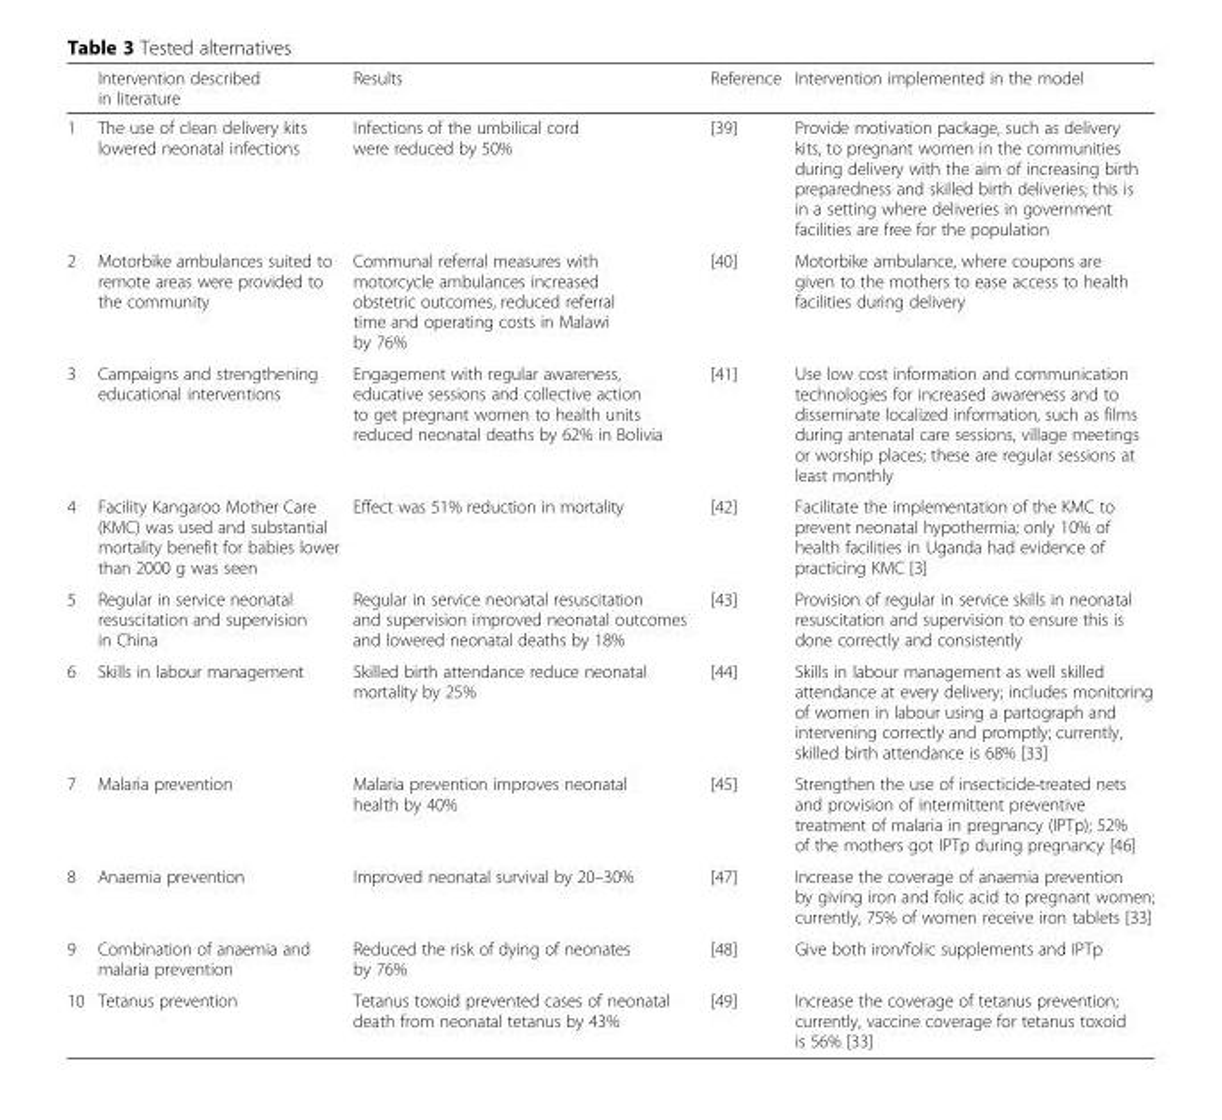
<table><thead><tr><td></td><td>Intervention described in literature</td><td>Results</td><td>Reference</td><td>Intervention implemented in the model</td></tr></thead><tbody><tr><td>1</td><td>The use of clean delivery kits lowered neonatal infections</td><td>Infections of the umbilical cord were reduced by 50%</td><td>[39]</td><td>Provide motivation package, such as delivery kits, to pregnant women in the communities during delivery with the aim of increasing birth preparedness and skilled birth deliveries; this is in a setting where deliveries in government facilities are free for the population</td></tr><tr><td>2</td><td>Motorbike ambulances suited to remote areas were provided to the community</td><td>Communal referral measures with motorcycle ambulances increased obstetric outcomes, reduced referral time and operating costs in Malawi by 76%</td><td>[40]</td><td>Motorbike ambulance, where coupons are given to the mothers to ease access to health facilities during delivery</td></tr><tr><td>3</td><td>Campaigns and strengthening educational interventions</td><td>Engagement with regular awareness, educative sessions and collective action to get pregnant women to health units reduced neonatal deaths by 62% in Bolivia</td><td>[41]</td><td>Use low cost information and communication technologies for increased awareness and to disseminate localized information, such as films during antenatal care sessions, village meetings or worship places; these are regular sessions at least monthly</td></tr><tr><td>4</td><td>Facility Kangaroo Mother Care (KMC) was used and substantial mortality benefit for babies lower than 2000 g was seen</td><td>Effect was 51% reduction in mortality</td><td>[42]</td><td>Facilitate the implementation of the KMC to prevent neonatal hypothermia; only 10% of health facilities in Uganda had evidence of practicing KMC [3]</td></tr><tr><td>5</td><td>Regular in service neonatal resuscitation and supervision in China</td><td>Regular in service neonatal resuscitation and supervision improved neonatal outcomes and lowered neonatal deaths by 18%</td><td>[43]</td><td>Provision of regular in service skills in neonatal resuscitation and supervision to ensure this is done correctly and consistently</td></tr><tr><td>6</td><td>Skills in labour management</td><td>Skilled birth attendance reduce neonatal mortality by 25%</td><td>[44]</td><td>Skills in labour management as well skilled attendance at every delivery; includes monitoring of women in labour using a partograph and intervening correctly and promptly; currently, skilled birth attendance is 68% [33]</td></tr><tr><td>7</td><td>Malaria prevention</td><td>Malaria prevention improves neonatal health by 40%</td><td>[45]</td><td>Strengthen the use of insecticide-treated nets and provision of intermittent preventive treatment of malaria in pregnancy (IPTp); 52% of the mothers got IPTp during pregnancy [46]</td></tr><tr><td>8</td><td>Anaemia prevention</td><td>Improved neonatal survival by 20–30%</td><td>[47]</td><td>Increase the coverage of anaemia prevention by giving iron and folic acid to pregnant women; currently, 75% of women receive iron tablets [33]</td></tr><tr><td>9</td><td>Combination of anaemia and malaria prevention</td><td>Reduced the risk of dying of neonates by 76%</td><td>[48]</td><td>Give both iron/folic supplements and IPTp</td></tr><tr><td>10</td><td>Tetanus prevention</td><td>Tetanus toxoid prevented cases of neonatal death from neonatal tetanus by 43%</td><td>[49]</td><td>Increase the coverage of tetanus prevention; currently, vaccine coverage for tetanus toxoid is 56% [33]</td></tr></tbody></table>